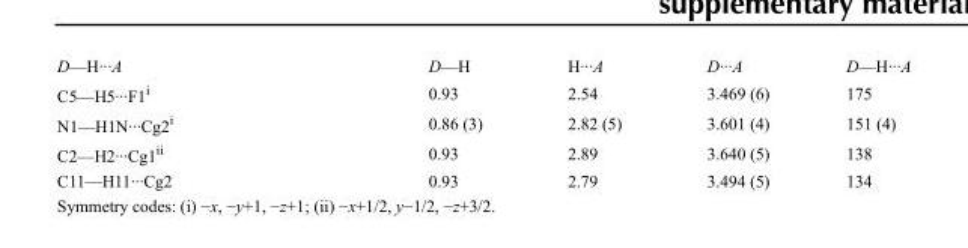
<table><tbody><tr><td>D—H···A</td><td>D—H</td><td>H···A</td><td>D···A</td><td>D—H···A</td></tr><tr><td>C5—H5···F1<sup>i</sup></td><td>0.93</td><td>2.54</td><td>3.469 (6)</td><td>175</td></tr><tr><td>N1—H1N···Cg2<sup>i</sup></td><td>0.86 (3)</td><td>2.82 (5)</td><td>3.601 (4)</td><td>151 (4)</td></tr><tr><td>C2—H2···Cg1<sup>ii</sup></td><td>0.93</td><td>2.89</td><td>3.640 (5)</td><td>138</td></tr><tr><td>C11—H11···Cg2</td><td>0.93</td><td>2.79</td><td>3.494 (5)</td><td>134</td></tr></tbody></table>